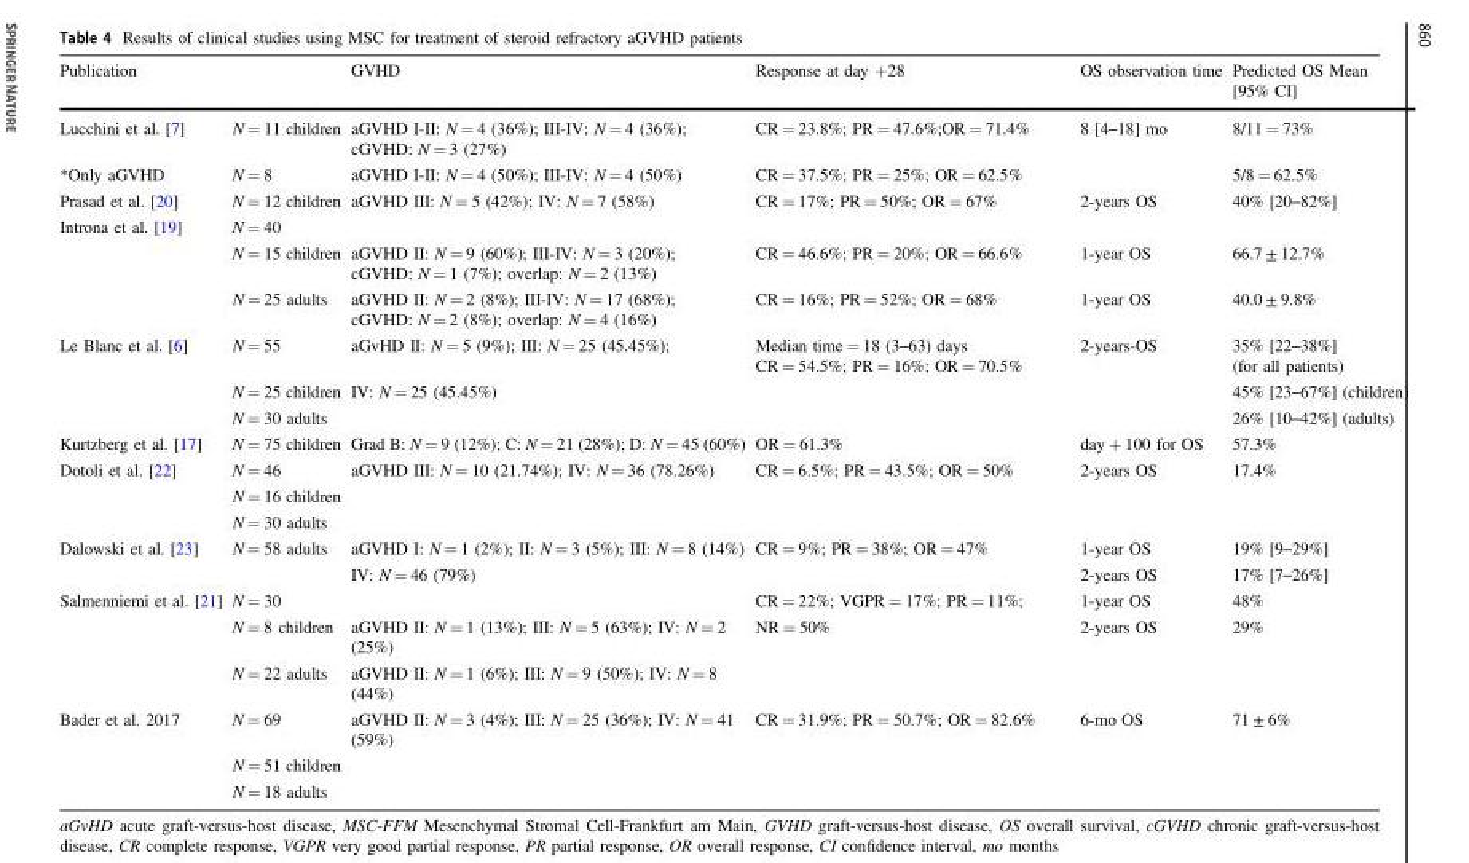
<table><thead><tr><td>Publication</td><td></td><td>GVHD</td><td>Response at day +28</td><td>OS observation time</td><td>Predicted OS Mean [95% CI]</td></tr></thead><tbody><tr><td>Lucchini et al. [7]</td><td>N = 11 children</td><td>aGVHD I-II: N = 4 (36%); III-IV: N = 4 (36%); cGVHD: N = 3 (27%)</td><td>CR = 23.8%; PR = 47.6%;OR = 71.4%</td><td>8 [4–18] mo</td><td>8/11 = 73%</td></tr><tr><td>*Only aGVHD</td><td>N = 8</td><td>aGVHD I-II: N = 4 (50%); III-IV: N = 4 (50%)</td><td>CR = 37.5%; PR = 25%; OR = 62.5%</td><td></td><td>5/8 = 62.5%</td></tr><tr><td>Prasad et al. [20]</td><td>N = 12 children</td><td>aGVHD III: N = 5 (42%); IV: N = 7 (58%)</td><td>CR = 17%; PR = 50%; OR = 67%</td><td>2-years OS</td><td>40% [20–82%]</td></tr><tr><td rowspan="3">Introna et al. [19]</td><td>N = 40</td><td></td><td></td><td></td><td></td></tr><tr><td>N = 15 children</td><td>aGVHD II: N = 9 (60%); III-IV: N = 3 (20%); cGVHD: N = 1 (7%); overlap: N = 2 (13%)</td><td>CR = 46.6%; PR = 20%; OR = 66.6%</td><td>1-year OS</td><td>66.7 ± 12.7%</td></tr><tr><td>N = 25 adults</td><td>aGVHD II: N = 2 (8%); III-IV: N = 17 (68%); cGVHD: N = 2 (8%); overlap: N = 4 (16%)</td><td>CR = 16%; PR = 52%; OR = 68%</td><td>1-year OS</td><td>40.0 ± 9.8%</td></tr><tr><td rowspan="3">Le Blanc et al. [6]</td><td>N = 55</td><td>aGvHD II: N = 5 (9%); III: N = 25 (45.45%);</td><td>Median time = 18 (3–63) days CR = 54.5%; PR = 16%; OR = 70.5%</td><td>2-years-OS</td><td>35% [22–38%] (for all patients)</td></tr><tr><td>N = 25 children</td><td>IV: N = 25 (45.45%)</td><td></td><td></td><td>45% [23–67%] (children)</td></tr><tr><td>N = 30 adults</td><td></td><td></td><td></td><td>26% [10–42%] (adults)</td></tr><tr><td>Kurtzberg et al. [17]</td><td>N = 75 children</td><td>Grad B: N = 9 (12%); C: N = 21 (28%); D: N = 45 (60%)</td><td>OR = 61.3%</td><td>day + 100 for OS</td><td>57.3%</td></tr><tr><td rowspan="3">Dotoli et al. [22]</td><td>N = 46</td><td>aGVHD III: N = 10 (21.74%); IV: N = 36 (78.26%)</td><td>CR = 6.5%; PR = 43.5%; OR = 50%</td><td>2-years OS</td><td>17.4%</td></tr><tr><td>N = 16 children</td><td></td><td></td><td></td><td></td></tr><tr><td>N = 30 adults</td><td></td><td></td><td></td><td></td></tr><tr><td rowspan="2">Dalowski et al. [23]</td><td>N = 58 adults</td><td>aGVHD I: N = 1 (2%); II: N = 3 (5%); III: N = 8 (14%)</td><td>CR = 9%; PR = 38%; OR = 47%</td><td>1-year OS</td><td>19% [9–29%]</td></tr><tr><td></td><td>IV: N = 46 (79%)</td><td></td><td>2-years OS</td><td>17% [7–26%]</td></tr><tr><td rowspan="3">Salmenniemi et al. [21]</td><td>N = 30</td><td></td><td>CR = 22%; VGPR = 17%; PR = 11%;</td><td>1-year OS</td><td>48%</td></tr><tr><td>N = 8 children</td><td>aGVHD II: N = 1 (13%); III: N = 5 (63%); IV: N = 2 (25%)</td><td>NR = 50%</td><td>2-years OS</td><td>29%</td></tr><tr><td>N = 22 adults</td><td>aGVHD II: N = 1 (6%); III: N = 9 (50%); IV: N = 8 (44%)</td><td></td><td></td><td></td></tr><tr><td rowspan="3">Bader et al. 2017</td><td>N = 69</td><td>aGVHD II: N = 3 (4%); III: N = 25 (36%); IV: N = 41 (59%)</td><td>CR = 31.9%; PR = 50.7%; OR = 82.6%</td><td>6-mo OS</td><td>71 ± 6%</td></tr><tr><td>N = 51 children</td><td></td><td></td><td></td><td></td></tr><tr><td>N = 18 adults</td><td></td><td></td><td></td><td></td></tr></tbody></table>